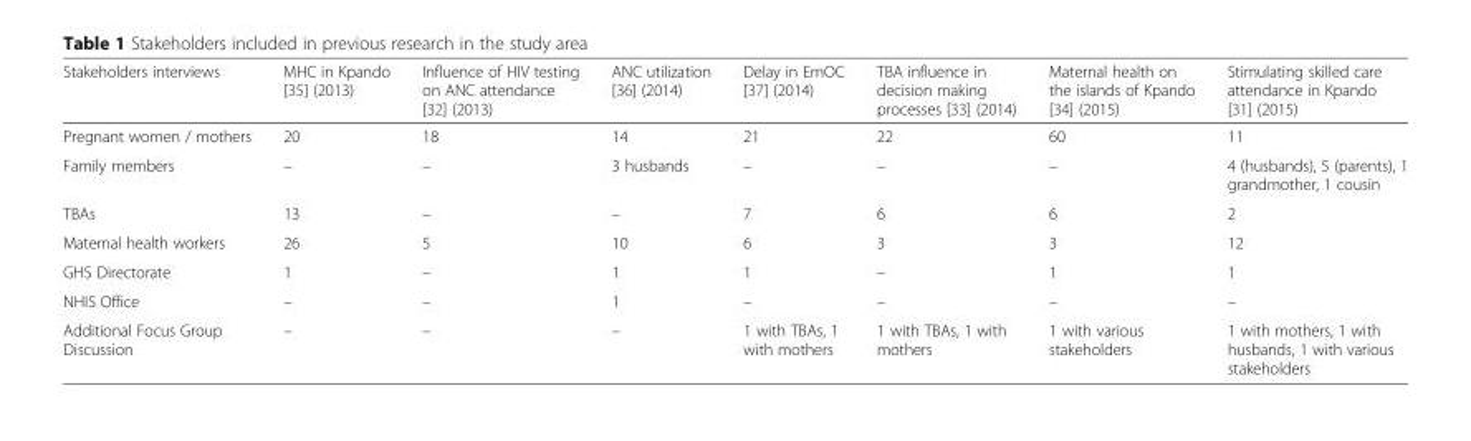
<table><thead><tr><td>Stakeholders interviews</td><td>MHC in Kpando [35] (2013)</td><td>Influence of HIV testing on ANC attendance [32] (2013)</td><td>ANC utilization [36] (2014)</td><td>Delay in EmOC [37] (2014)</td><td>TBA influence in decision making processes [33] (2014)</td><td>Maternal health on the islands of Kpando [34] (2015)</td><td>Stimulating skilled care attendance in Kpando [31] (2015)</td></tr></thead><tbody><tr><td>Pregnant women / mothers</td><td>20</td><td>18</td><td>14</td><td>21</td><td>22</td><td>60</td><td>11</td></tr><tr><td>Family members</td><td>–</td><td>–</td><td>3 husbands</td><td>–</td><td>–</td><td>–</td><td>4 (husbands), 5 (parents), 1 grandmother, 1 cousin</td></tr><tr><td>TBAs</td><td>13</td><td>–</td><td>–</td><td>7</td><td>6</td><td>6</td><td>2</td></tr><tr><td>Maternal health workers</td><td>26</td><td>5</td><td>10</td><td>6</td><td>3</td><td>3</td><td>12</td></tr><tr><td>GHS Directorate</td><td>1</td><td>–</td><td>1</td><td>1</td><td>–</td><td>1</td><td>1</td></tr><tr><td>NHIS Office</td><td>–</td><td>–</td><td>1</td><td>–</td><td>–</td><td>–</td><td>–</td></tr><tr><td>Additional Focus Group Discussion</td><td>–</td><td>–</td><td>–</td><td>1 with TBAs, 1 with mothers</td><td>1 with TBAs, 1 with mothers</td><td>1 with various stakeholders</td><td>1 with mothers, 1 with husbands, 1 with various stakeholders</td></tr></tbody></table>